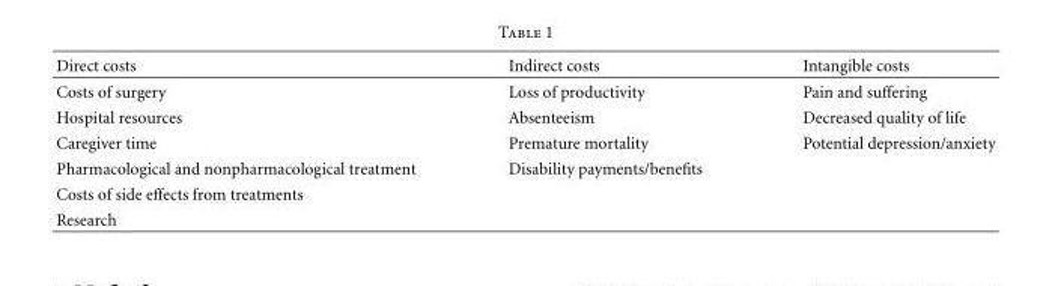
<table><thead><tr><td>Direct costs</td><td>Indirect costs</td><td>Intangible costs</td></tr></thead><tbody><tr><td>Costs of surgery</td><td>Loss of productivity</td><td>Pain and suffering</td></tr><tr><td>Hospital resources</td><td>Absenteeism</td><td>Decreased quality of life</td></tr><tr><td>Caregiver time</td><td>Premature mortality</td><td>Potential depression/anxiety</td></tr><tr><td>Pharmacological and nonpharmacological treatment</td><td>Disability payments/benefits</td><td></td></tr><tr><td colspan="3">Costs of side effects from treatments</td></tr><tr><td>Research</td><td></td><td></td></tr></tbody></table>